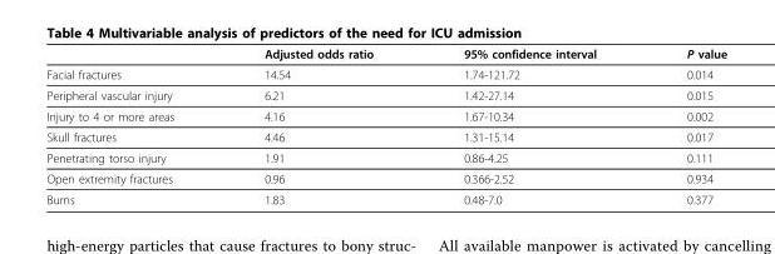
<table><thead><tr><td></td><td>Adjusted odds ratio</td><td>95% confidence interval</td><td>P value</td></tr></thead><tbody><tr><td>Facial fractures</td><td>14.54</td><td>1.74-121.72</td><td>0.014</td></tr><tr><td>Peripheral vascular injury</td><td>6.21</td><td>1.42-27.14</td><td>0.015</td></tr><tr><td>Injury to 4 or more areas</td><td>4.16</td><td>1.67-10.34</td><td>0.002</td></tr><tr><td>Skull fractures</td><td>4.46</td><td>1.31-15.14</td><td>0.017</td></tr><tr><td>Penetrating torso injury</td><td>1.91</td><td>0.86-4.25</td><td>0.111</td></tr><tr><td>Open extremity fractures</td><td>0.96</td><td>0.366-2.52</td><td>0.934</td></tr><tr><td>Burns</td><td>1.83</td><td>0.48-7.0</td><td>0.377</td></tr></tbody></table>